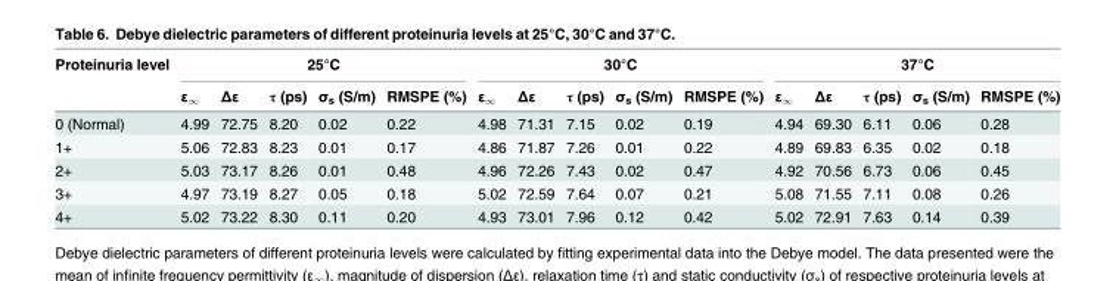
<table><thead><tr><td rowspan="2">Proteinuria level</td><td colspan="5">25°C</td><td colspan="5">30°C</td><td colspan="5">37°C</td></tr><tr><td>ε<sub>∞</sub></td><td>Δε</td><td>τ (ps)</td><td>σ<sub>s</sub> (S/m)</td><td>RMSPE (%)</td><td>ε<sub>∞</sub></td><td>Δε</td><td>τ (ps)</td><td>σ<sub>s</sub> (S/m)</td><td>RMSPE (%)</td><td>ε<sub>∞</sub></td><td>Δε</td><td>τ (ps)</td><td>σ<sub>s</sub> (S/m)</td><td>RMSPE (%)</td></tr></thead><tbody><tr><td>0 (Normal)</td><td>4.99</td><td>72.75</td><td>8.20</td><td>0.02</td><td>0.22</td><td>4.98</td><td>71.31</td><td>7.15</td><td>0.02</td><td>0.19</td><td>4.94</td><td>69.30</td><td>6.11</td><td>0.06</td><td>0.28</td></tr><tr><td>1+</td><td>5.06</td><td>72.83</td><td>8.23</td><td>0.01</td><td>0.17</td><td>4.86</td><td>71.87</td><td>7.26</td><td>0.01</td><td>0.22</td><td>4.89</td><td>69.83</td><td>6.35</td><td>0.02</td><td>0.18</td></tr><tr><td>2+</td><td>5.03</td><td>73.17</td><td>8.26</td><td>0.01</td><td>0.48</td><td>4.96</td><td>72.26</td><td>7.43</td><td>0.02</td><td>0.47</td><td>4.92</td><td>70.56</td><td>6.73</td><td>0.06</td><td>0.45</td></tr><tr><td>3+</td><td>4.97</td><td>73.19</td><td>8.27</td><td>0.05</td><td>0.18</td><td>5.02</td><td>72.59</td><td>7.64</td><td>0.07</td><td>0.21</td><td>5.08</td><td>71.55</td><td>7.11</td><td>0.08</td><td>0.26</td></tr><tr><td>4+</td><td>5.02</td><td>73.22</td><td>8.30</td><td>0.11</td><td>0.20</td><td>4.93</td><td>73.01</td><td>7.96</td><td>0.12</td><td>0.42</td><td>5.02</td><td>72.91</td><td>7.63</td><td>0.14</td><td>0.39</td></tr></tbody></table>